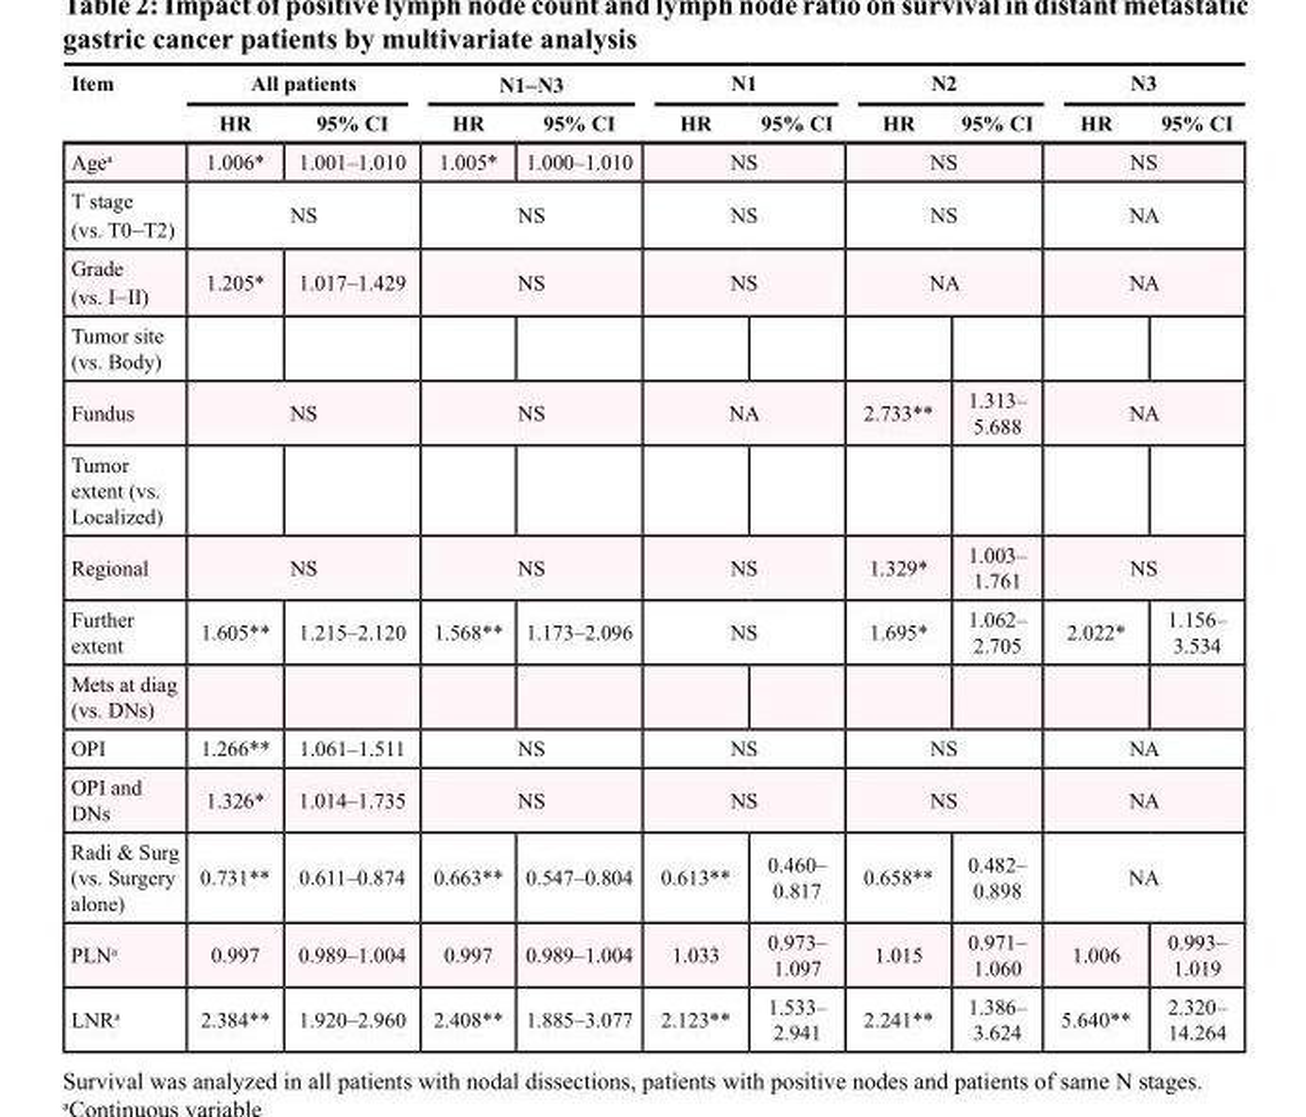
<table><thead><tr><td rowspan="2">Item</td><td colspan="2">All patients</td><td colspan="2">N1–N3</td><td colspan="2">N1</td><td colspan="2">N2</td><td colspan="2">N3</td></tr><tr><td>HR</td><td>95% CI</td><td>HR</td><td>95% CI</td><td>HR</td><td>95% CI</td><td>HR</td><td>95% CI</td><td>HR</td><td>95% CI</td></tr></thead><tbody><tr><td>Age<sup>a</sup></td><td>1.006*</td><td>1.001–1.010</td><td>1.005*</td><td>1.000–1.010</td><td colspan="2">NS</td><td colspan="2">NS</td><td colspan="2">NS</td></tr><tr><td>T stage (vs. T0–T2)</td><td colspan="2">NS</td><td colspan="2">NS</td><td colspan="2">NS</td><td colspan="2">NS</td><td colspan="2">NA</td></tr><tr><td>Grade (vs. I–II)</td><td>1.205*</td><td>1.017–1.429</td><td colspan="2">NS</td><td colspan="2">NS</td><td colspan="2">NA</td><td colspan="2">NA</td></tr><tr><td colspan="11">Tumor site (vs. Body)</td></tr><tr><td>Fundus</td><td colspan="2">NS</td><td colspan="2">NS</td><td colspan="2">NA</td><td>2.733**</td><td>1.313– 5.688</td><td colspan="2">NA</td></tr><tr><td colspan="11">Tumor extent (vs. Localized)</td></tr><tr><td>Regional</td><td colspan="2">NS</td><td colspan="2">NS</td><td colspan="2">NS</td><td>1.329*</td><td>1.003– 1.761</td><td colspan="2">NS</td></tr><tr><td>Further extent</td><td>1.605**</td><td>1.215–2.120</td><td>1.568**</td><td>1.173–2.096</td><td colspan="2">NS</td><td>1.695*</td><td>1.062– 2.705</td><td>2.022*</td><td>1.156– 3.534</td></tr><tr><td colspan="11">Mets at diag (vs. DNs)</td></tr><tr><td>OPI</td><td>1.266**</td><td>1.061–1.511</td><td colspan="2">NS</td><td colspan="2">NS</td><td colspan="2">NS</td><td colspan="2">NA</td></tr><tr><td>OPI and DNs</td><td>1.326*</td><td>1.014–1.735</td><td colspan="2">NS</td><td colspan="2">NS</td><td colspan="2">NS</td><td colspan="2">NA</td></tr><tr><td>Radi &amp; Surg (vs. Surgery alone)</td><td>0.731**</td><td>0.611–0.874</td><td>0.663**</td><td>0.547–0.804</td><td>0.613**</td><td>0.460– 0.817</td><td>0.658**</td><td>0.482– 0.898</td><td colspan="2">NA</td></tr><tr><td>PLN<sup>a</sup></td><td>0.997</td><td>0.989–1.004</td><td>0.997</td><td>0.989–1.004</td><td>1.033</td><td>0.973– 1.097</td><td>1.015</td><td>0.971– 1.060</td><td>1.006</td><td>0.993– 1.019</td></tr><tr><td>LNR<sup>a</sup></td><td>2.384**</td><td>1.920–2.960</td><td>2.408**</td><td>1.885–3.077</td><td>2.123**</td><td>1.533– 2.941</td><td>2.241**</td><td>1.386– 3.624</td><td>5.640**</td><td>2.320– 14.264</td></tr></tbody></table>